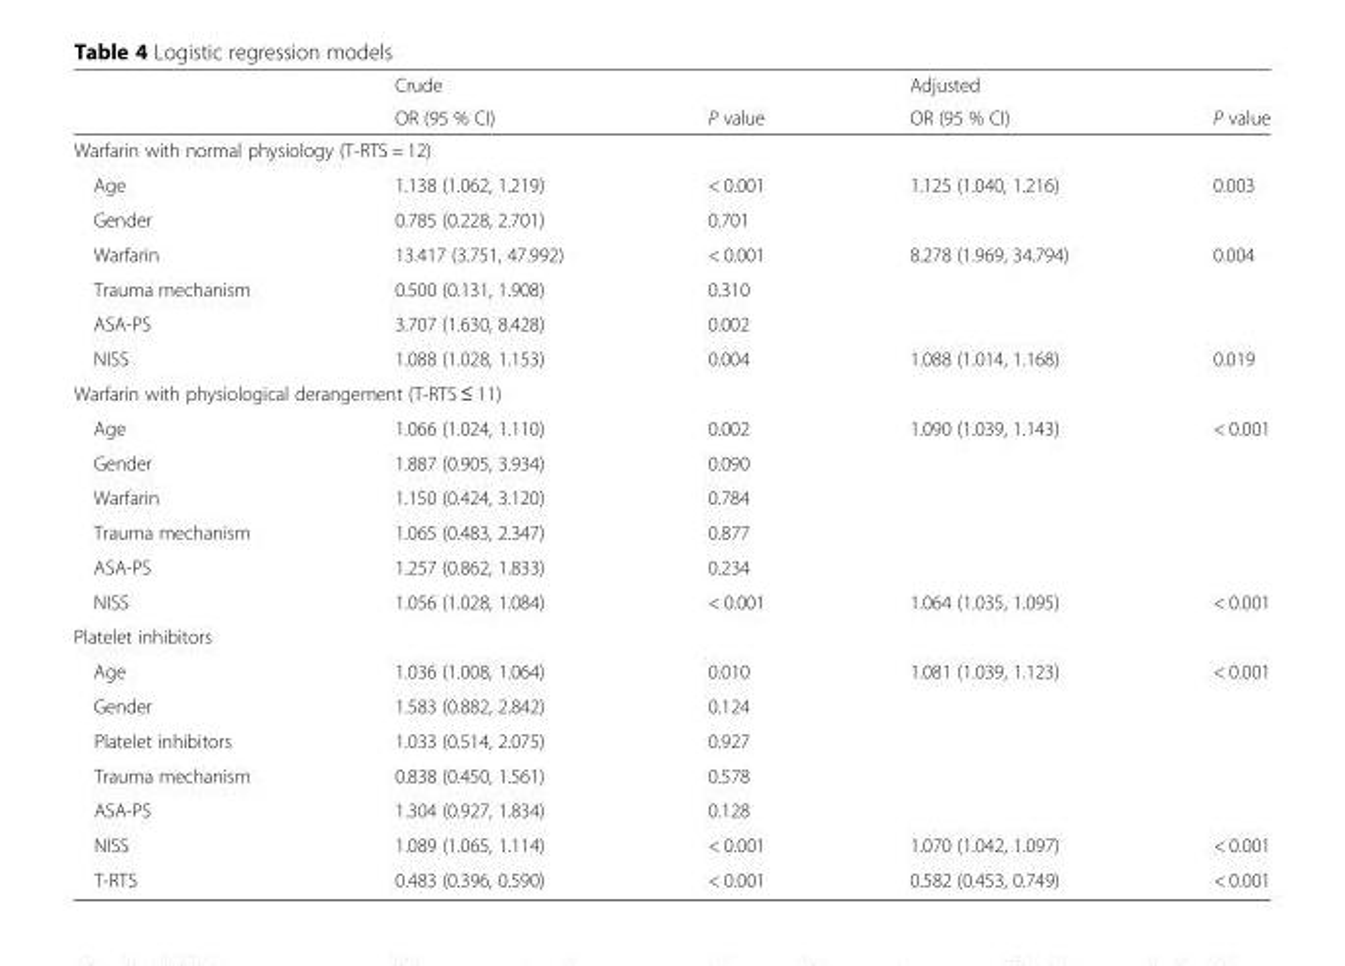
<table><thead><tr><td rowspan="2"></td><td rowspan="2">Crude OR (95 % CI)</td><td rowspan="2">P value</td><td rowspan="2">Adjusted OR (95 % CI)</td><td rowspan="2">P value</td></tr><tr></tr></thead><tbody><tr><td colspan="5">Warfarin with normal physiology (T-RTS = 12)</td></tr><tr><td>Age</td><td>1.138 (1.062, 1.219)</td><td>&lt; 0.001</td><td>1.125 (1.040, 1.216)</td><td>0.003</td></tr><tr><td>Gender</td><td>0.785 (0.228, 2.701)</td><td>0.701</td><td></td><td></td></tr><tr><td>Warfarin</td><td>13.417 (3.751, 47.992)</td><td>&lt; 0.001</td><td>8.278 (1.969, 34.794)</td><td>0.004</td></tr><tr><td>Trauma mechanism</td><td>0.500 (0.131, 1.908)</td><td>0.310</td><td></td><td></td></tr><tr><td>ASA-PS</td><td>3.707 (1.630, 8.428)</td><td>0.002</td><td></td><td></td></tr><tr><td>NISS</td><td>1.088 (1.028, 1.153)</td><td>0.004</td><td>1.088 (1.014, 1.168)</td><td>0.019</td></tr><tr><td colspan="5">Warfarin with physiological derangement (T-RTS ≤ 11)</td></tr><tr><td>Age</td><td>1.066 (1.024, 1.110)</td><td>0.002</td><td>1.090 (1.039, 1.143)</td><td>&lt; 0.001</td></tr><tr><td>Gender</td><td>1.887 (0.905, 3.934)</td><td>0.090</td><td></td><td></td></tr><tr><td>Warfarin</td><td>1.150 (0.424, 3.120)</td><td>0.784</td><td></td><td></td></tr><tr><td>Trauma mechanism</td><td>1.065 (0.483, 2.347)</td><td>0.877</td><td></td><td></td></tr><tr><td>ASA-PS</td><td>1.257 (0.862, 1.833)</td><td>0.234</td><td></td><td></td></tr><tr><td>NISS</td><td>1.056 (1.028, 1.084)</td><td>&lt; 0.001</td><td>1.064 (1.035, 1.095)</td><td>&lt; 0.001</td></tr><tr><td colspan="5">Platelet inhibitors</td></tr><tr><td>Age</td><td>1.036 (1.008, 1.064)</td><td>0.010</td><td>1.081 (1.039, 1.123)</td><td>&lt; 0.001</td></tr><tr><td>Gender</td><td>1.583 (0.882, 2.842)</td><td>0.124</td><td></td><td></td></tr><tr><td>Platelet inhibitors</td><td>1.033 (0.514, 2.075)</td><td>0.927</td><td></td><td></td></tr><tr><td>Trauma mechanism</td><td>0.838 (0.450, 1.561)</td><td>0.578</td><td></td><td></td></tr><tr><td>ASA-PS</td><td>1.304 (0.927, 1.834)</td><td>0.128</td><td></td><td></td></tr><tr><td>NISS</td><td>1.089 (1.065, 1.114)</td><td>&lt; 0.001</td><td>1.070 (1.042, 1.097)</td><td>&lt; 0.001</td></tr><tr><td>T-RTS</td><td>0.483 (0.396, 0.590)</td><td>&lt; 0.001</td><td>0.582 (0.453, 0.749)</td><td>&lt; 0.001</td></tr></tbody></table>